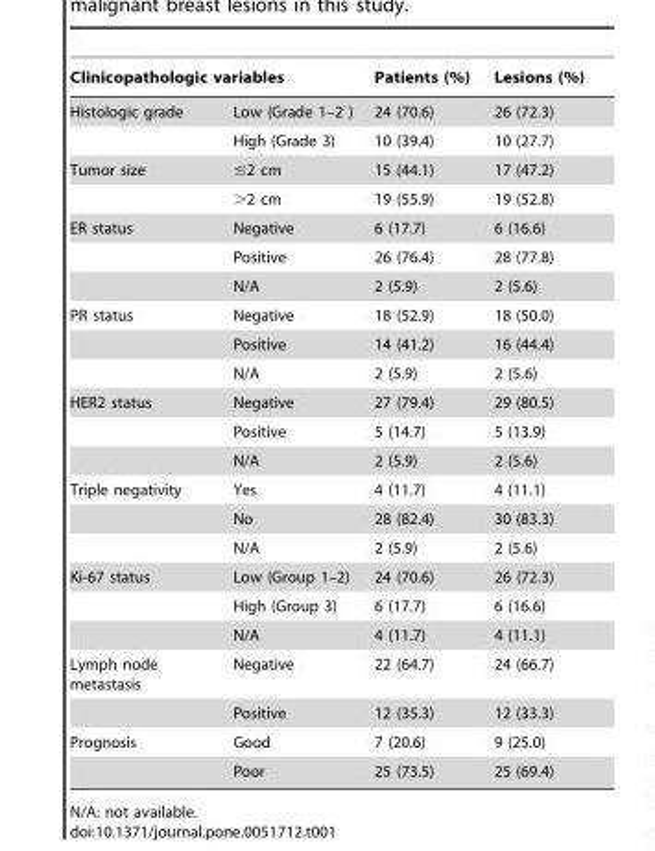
<table><thead><tr><td colspan="2">Clinicopathologic variables</td><td rowspan="2">Patients (%) 24 (70.6)</td><td rowspan="2">Lesions (%) 26 (72.3)</td></tr><tr><td>Histologic grade</td><td>Low (Grade 1–2 )</td></tr></thead><tbody><tr><td></td><td>High (Grade 3)</td><td>10 (39.4)</td><td>10 (27.7)</td></tr><tr><td rowspan="2">Tumor size</td><td>≤2 cm</td><td>15 (44.1)</td><td>17 (47.2)</td></tr><tr><td>&gt;2 cm</td><td>19 (55.9)</td><td>19 (52.8)</td></tr><tr><td rowspan="3">ER status</td><td>Negative</td><td>6 (17.7)</td><td>6 (16.6)</td></tr><tr><td>Positive</td><td>26 (76.4)</td><td>28 (77.8)</td></tr><tr><td>N/A</td><td>2 (5.9)</td><td>2 (5.6)</td></tr><tr><td rowspan="3">PR status</td><td>Negative</td><td>18 (52.9)</td><td>18 (50.0)</td></tr><tr><td>Positive</td><td>14 (41.2)</td><td>16 (44.4)</td></tr><tr><td>N/A</td><td>2 (5.9)</td><td>2 (5.6)</td></tr><tr><td rowspan="3">HER2 status</td><td>Negative</td><td>27 (79.4)</td><td>29 (80.5)</td></tr><tr><td>Positive</td><td>5 (14.7)</td><td>5 (13.9)</td></tr><tr><td>N/A</td><td>2 (5.9)</td><td>2 (5.6)</td></tr><tr><td rowspan="3">Triple negativity</td><td>Yes</td><td>4 (11.7)</td><td>4 (11.1)</td></tr><tr><td>No</td><td>28 (82.4)</td><td>30 (83.3)</td></tr><tr><td>N/A</td><td>2 (5.9)</td><td>2 (5.6)</td></tr><tr><td rowspan="3">Ki-67 status</td><td>Low (Group 1–2)</td><td>24 (70.6)</td><td>26 (72.3)</td></tr><tr><td>High (Group 3)</td><td>6 (17.7)</td><td>6 (16.6)</td></tr><tr><td>N/A</td><td>4 (11.7)</td><td>4 (11.1)</td></tr><tr><td rowspan="2">Lymph node metastasis</td><td>Negative</td><td>22 (64.7)</td><td>24 (66.7)</td></tr><tr><td>Positive</td><td>12 (35.3)</td><td>12 (33.3)</td></tr><tr><td rowspan="2">Prognosis</td><td>Good</td><td>7 (20.6)</td><td>9 (25.0)</td></tr><tr><td>Poor</td><td>25 (73.5)</td><td>25 (69.4)</td></tr></tbody></table>